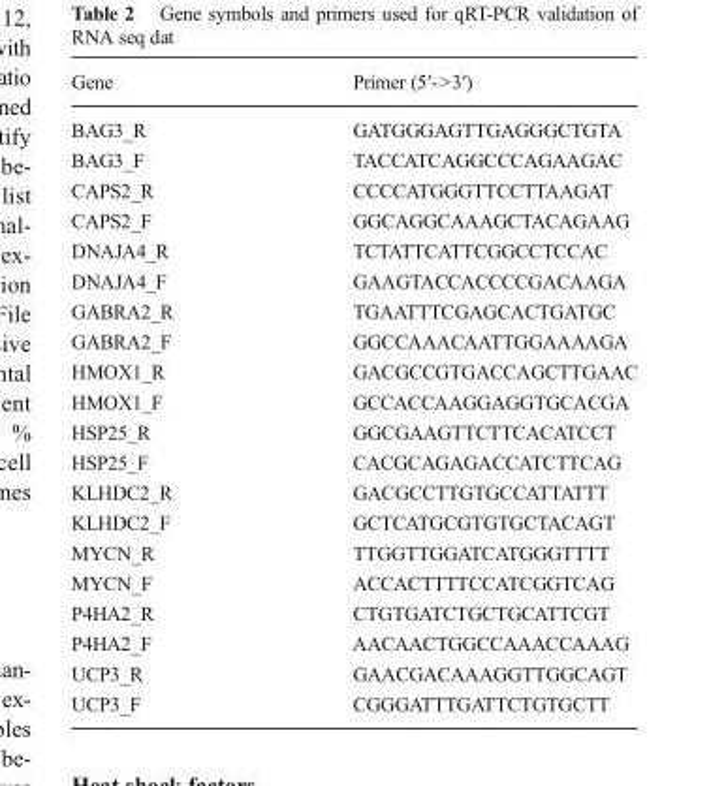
<table><thead><tr><td>Gene</td><td>Primer (5′-&gt;3′)</td></tr></thead><tbody><tr><td>BAG3_R</td><td>GATGGGAGTTGAGGGCTGTA</td></tr><tr><td>BAG3_F</td><td>TACCATCAGGCCCAGAAGAC</td></tr><tr><td>CAPS2_R</td><td>CCCCATGGGTTCCTTAAGAT</td></tr><tr><td>CAPS2_F</td><td>GGCAGGCAAAGCTACAGAAG</td></tr><tr><td>DNAJA4_R</td><td>TCTATTCATTCGGCCTCCAC</td></tr><tr><td>DNAJA4_F</td><td>GAAGTACCACCCCGACAAGA</td></tr><tr><td>GABRA2_R</td><td>TGAATTTCGAGCACTGATGC</td></tr><tr><td>GABRA2_F</td><td>GGCCAAACAATTGGAAAAGA</td></tr><tr><td>HMOX1_R</td><td>GACGCCGTGACCAGCTTGAAC</td></tr><tr><td>HMOX1_F</td><td>GCCACCAAGGAGGTGCACGA</td></tr><tr><td>HSP25_R</td><td>GGCGAAGTTCTTCACATCCT</td></tr><tr><td>HSP25_F</td><td>CACGCAGAGACCATCTTCAG</td></tr><tr><td>KLHDC2_R</td><td>GACGCCTTGTGCCATTATTT</td></tr><tr><td>KLHDC2_F</td><td>GCTCATGCGTGTGCTACAGT</td></tr><tr><td>MYCN_R</td><td>TTGGTTGGATCATGGGTTTT</td></tr><tr><td>MYCN_F</td><td>ACCACTTTTCCATCGGTCAG</td></tr><tr><td>P4HA2_R</td><td>CTGTGATCTGCTGCATTCGT</td></tr><tr><td>P4HA2_F</td><td>AACAACTGGCCAAACCAAAG</td></tr><tr><td>UCP3_R</td><td>GAACGACAAAGGTTGGCAGT</td></tr><tr><td>UCP3_F</td><td>CGGGATTTGATTCTGTGCTT</td></tr></tbody></table>